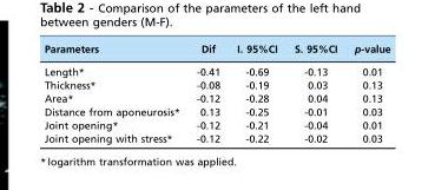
<table><thead><tr><td>Parameters</td><td>Dif</td><td>I. 95%CI</td><td>S. 95%CI</td><td>p-value</td></tr></thead><tbody><tr><td>Length*</td><td>-0.41</td><td>-0.69</td><td>-0.13</td><td>0.01</td></tr><tr><td>Thickness*</td><td>-0.08</td><td>-0.19</td><td>0.03</td><td>0.13</td></tr><tr><td>Area*</td><td>-0.12</td><td>-0.28</td><td>0.04</td><td>0.13</td></tr><tr><td>Distance from aponeurosis*</td><td>0.13</td><td>-0.25</td><td>-0.01</td><td>0.03</td></tr><tr><td>Joint opening*</td><td>-0.12</td><td>-0.21</td><td>-0.04</td><td>0.01</td></tr><tr><td>Joint opening with stress*</td><td>-0.12</td><td>-0.22</td><td>-0.02</td><td>0.03</td></tr></tbody></table>